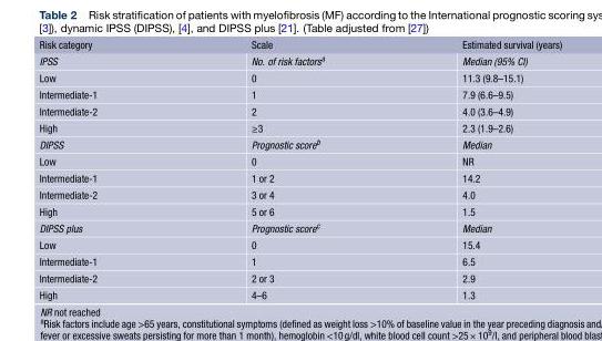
<table><thead><tr><td>Risk category</td><td>Scale</td><td>Estimated survival (years)</td></tr></thead><tbody><tr><td>IPSS</td><td>No. of risk factors<sup>a</sup></td><td>Median (95% CI)</td></tr><tr><td>Low</td><td>0</td><td>11.3 (9.8–15.1)</td></tr><tr><td>Intermediate-1</td><td>1</td><td>7.9 (6.6–9.5)</td></tr><tr><td>Intermediate-2</td><td>2</td><td>4.0 (3.6–4.9)</td></tr><tr><td>High</td><td>≥3</td><td>2.3 (1.9–2.6)</td></tr><tr><td>DIPSS</td><td>Prognostic score<sup>b</sup></td><td>Median</td></tr><tr><td>Low</td><td>0</td><td>NR</td></tr><tr><td>Intermediate-1</td><td>1 or 2</td><td>14.2</td></tr><tr><td>Intermediate-2</td><td>3 or 4</td><td>4.0</td></tr><tr><td>High</td><td>5 or 6</td><td>1.5</td></tr><tr><td>DIPSS plus</td><td>Prognostic score<sup>c</sup></td><td>Median</td></tr><tr><td>Low</td><td>0</td><td>15.4</td></tr><tr><td>Intermediate-1</td><td>1</td><td>6.5</td></tr><tr><td>Intermediate-2</td><td>2 or 3</td><td>2.9</td></tr><tr><td>High</td><td>4–6</td><td>1.3</td></tr></tbody></table>